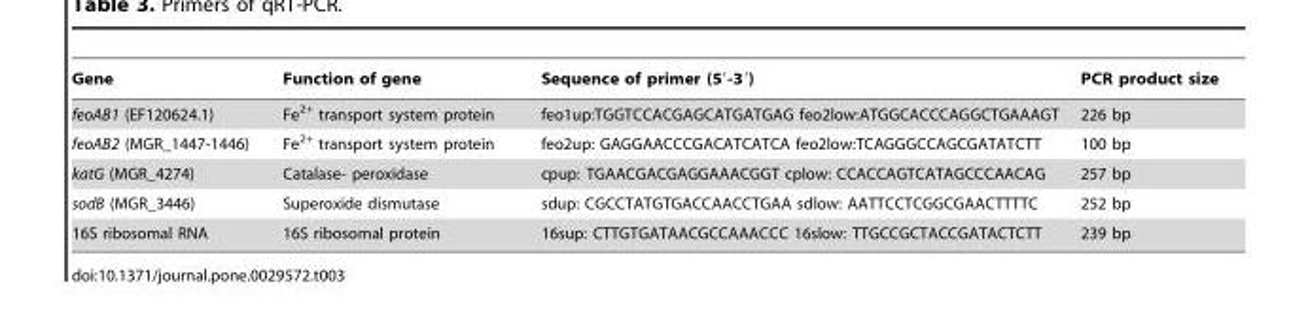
<table><thead><tr><td>Gene</td><td>Function of gene</td><td>Sequence of primer (5′-3′)</td><td>PCR product size</td></tr></thead><tbody><tr><td>feoAB1 (EF120624.1)</td><td>Fe<sup>2+</sup> transport system protein</td><td>feo1up:TGGTCCACGAGCATGATGAG feo2low:ATGGCACCCAGGCTGAAAGT</td><td>226 bp</td></tr><tr><td>feoAB2 (MGR_1447-1446)</td><td>Fe<sup>2+</sup> transport system protein</td><td>feo2up: GAGGAACCCGACATCATCA feo2low:TCAGGGCCAGCGATATCTT</td><td>100 bp</td></tr><tr><td>katG (MGR_4274)</td><td>Catalase- peroxidase</td><td>cpup: TGAACGACGAGGAAACGGT cplow: CCACCAGTCATAGCCCAACAG</td><td>257 bp</td></tr><tr><td>sodB (MGR_3446)</td><td>Superoxide dismutase</td><td>sdup: CGCCTATGTGACCAACCTGAA sdlow: AATTCCTCGGCGAACTTTTC</td><td>252 bp</td></tr><tr><td>16S ribosomal RNA</td><td>16S ribosomal protein</td><td>16sup: CTTGTGATAACGCCAAACCC 16slow: TTGCCGCTACCGATACTCTT</td><td>239 bp</td></tr></tbody></table>